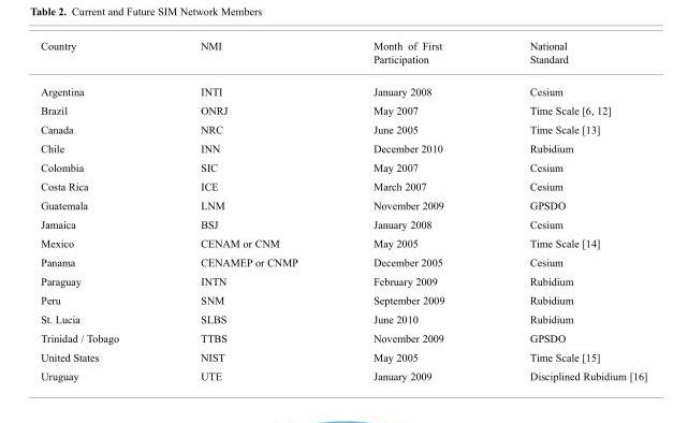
<table><thead><tr><td>Country</td><td>NMI</td><td>Month of First Participation</td><td>National Standard</td></tr></thead><tbody><tr><td>Argentina</td><td>INTI</td><td>January 2008</td><td>Cesium</td></tr><tr><td>Brazil</td><td>ONRJ</td><td>May 2007</td><td>Time Scale [6, 12]</td></tr><tr><td>Canada</td><td>NRC</td><td>June 2005</td><td>Time Scale [13]</td></tr><tr><td>Chile</td><td>INN</td><td>December 2010</td><td>Rubidium</td></tr><tr><td>Colombia</td><td>SIC</td><td>May 2007</td><td>Cesium</td></tr><tr><td>Costa Rica</td><td>ICE</td><td>March 2007</td><td>Cesium</td></tr><tr><td>Guatemala</td><td>LNM</td><td>November 2009</td><td>GPSDO</td></tr><tr><td>Jamaica</td><td>BSJ</td><td>January 2008</td><td>Cesium</td></tr><tr><td>Mexico</td><td>CENAM or CNM</td><td>May 2005</td><td>Time Scale [14]</td></tr><tr><td>Panama</td><td>CENAMEP or CNMP</td><td>December 2005</td><td>Cesium</td></tr><tr><td>Paraguay</td><td>INTN</td><td>February 2009</td><td>Rubidium</td></tr><tr><td>Peru</td><td>SNM</td><td>September 2009</td><td>Rubidium</td></tr><tr><td>St. Lucia</td><td>SLBS</td><td>June 2010</td><td>Rubidium</td></tr><tr><td>Trinidad / Tobago</td><td>TTBS</td><td>November 2009</td><td>GPSDO</td></tr><tr><td>United States</td><td>NIST</td><td>May 2005</td><td>Time Scale [15]</td></tr><tr><td>Uruguay</td><td>UTE</td><td>January 2009</td><td>Disciplined Rubidium [16]</td></tr></tbody></table>